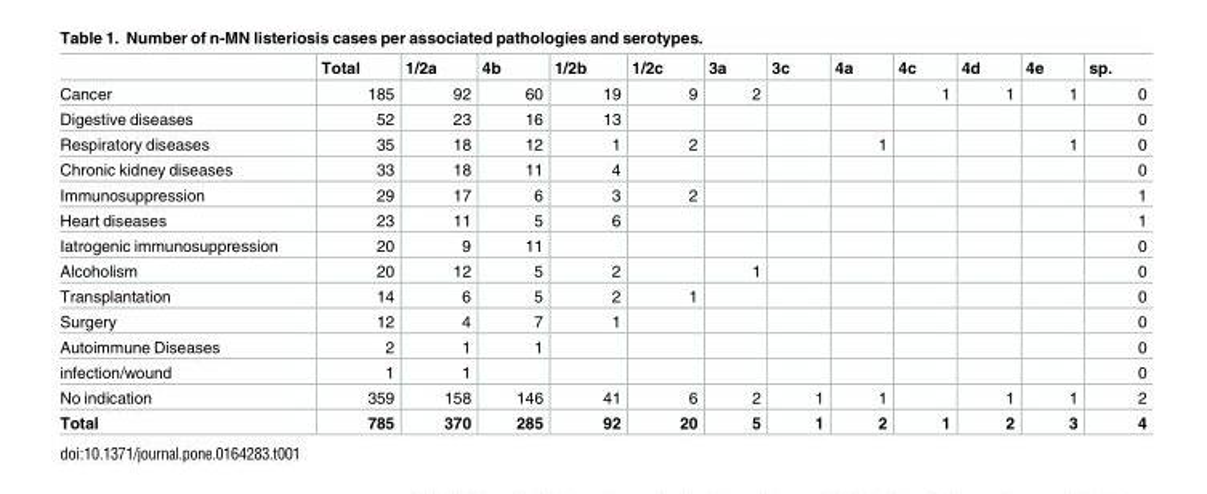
<table><thead><tr><td></td><td>Total</td><td>1/2a</td><td>4b</td><td>1/2b</td><td>1/2c</td><td>3a</td><td>3c</td><td>4a</td><td>4c</td><td>4d</td><td>4e</td><td>sp.</td></tr></thead><tbody><tr><td>Cancer</td><td>185</td><td>92</td><td>60</td><td>19</td><td>9</td><td>2</td><td></td><td></td><td>1</td><td>1</td><td>1</td><td>0</td></tr><tr><td>Digestive diseases</td><td>52</td><td>23</td><td>16</td><td>13</td><td></td><td></td><td></td><td></td><td></td><td></td><td></td><td>0</td></tr><tr><td>Respiratory diseases</td><td>35</td><td>18</td><td>12</td><td>1</td><td>2</td><td></td><td></td><td>1</td><td></td><td></td><td>1</td><td>0</td></tr><tr><td>Chronic kidney diseases</td><td>33</td><td>18</td><td>11</td><td>4</td><td></td><td></td><td></td><td></td><td></td><td></td><td></td><td>0</td></tr><tr><td>Immunosuppression</td><td>29</td><td>17</td><td>6</td><td>3</td><td>2</td><td></td><td></td><td></td><td></td><td></td><td></td><td>1</td></tr><tr><td>Heart diseases</td><td>23</td><td>11</td><td>5</td><td>6</td><td></td><td></td><td></td><td></td><td></td><td></td><td></td><td>1</td></tr><tr><td>Iatrogenic immunosuppression</td><td>20</td><td>9</td><td>11</td><td></td><td></td><td></td><td></td><td></td><td></td><td></td><td></td><td>0</td></tr><tr><td>Alcoholism</td><td>20</td><td>12</td><td>5</td><td>2</td><td></td><td>1</td><td></td><td></td><td></td><td></td><td></td><td>0</td></tr><tr><td>Transplantation</td><td>14</td><td>6</td><td>5</td><td>2</td><td>1</td><td></td><td></td><td></td><td></td><td></td><td></td><td>0</td></tr><tr><td>Surgery</td><td>12</td><td>4</td><td>7</td><td>1</td><td></td><td></td><td></td><td></td><td></td><td></td><td></td><td>0</td></tr><tr><td>Autoimmune Diseases</td><td>2</td><td>1</td><td>1</td><td></td><td></td><td></td><td></td><td></td><td></td><td></td><td></td><td>0</td></tr><tr><td>infection/wound</td><td>1</td><td>1</td><td></td><td></td><td></td><td></td><td></td><td></td><td></td><td></td><td></td><td>0</td></tr><tr><td>No indication</td><td>359</td><td>158</td><td>146</td><td>41</td><td>6</td><td>2</td><td>1</td><td>1</td><td></td><td>1</td><td>1</td><td>2</td></tr><tr><td>Total</td><td>785</td><td>370</td><td>285</td><td>92</td><td>20</td><td>5</td><td>1</td><td>2</td><td>1</td><td>2</td><td>3</td><td>4</td></tr></tbody></table>